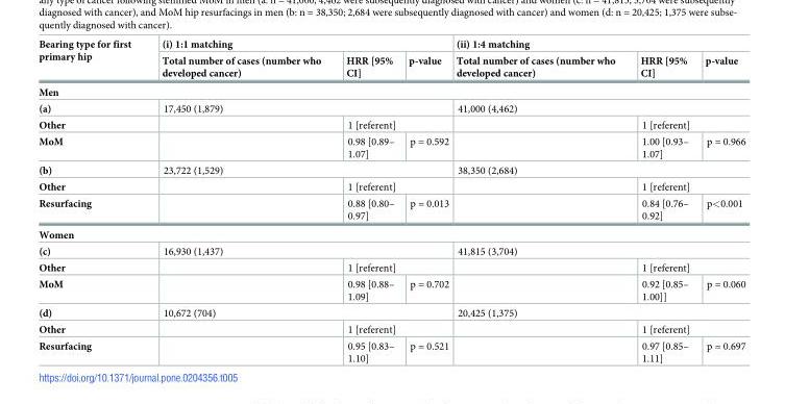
<table><thead><tr><td rowspan="2">Bearing type for first primary hip</td><td colspan="3">(i) 1:1 matching</td><td colspan="3">(ii) 1:4 matching</td></tr><tr><td>Total number of cases (number who developed cancer)</td><td>HRR [95% CI]</td><td>p-value</td><td>Total number of cases (number who developed cancer)</td><td>HRR [95% CI]</td><td>p-value</td></tr></thead><tbody><tr><td colspan="7">Men</td></tr><tr><td>(a)</td><td colspan="3">17,450 (1,879)</td><td colspan="3">41,000 (4,462)</td></tr><tr><td>Other</td><td></td><td colspan="2">1 [referent]</td><td></td><td colspan="2">1 [referent]</td></tr><tr><td>MoM</td><td></td><td>0.98 [0.89– 1.07]</td><td>p = 0.592</td><td></td><td>1.00 [0.93– 1.07]</td><td>p = 0.966</td></tr><tr><td>(b)</td><td colspan="3">23,722 (1,529)</td><td colspan="3">38,350 (2,684)</td></tr><tr><td>Other</td><td></td><td colspan="2">1 [referent]</td><td></td><td colspan="2">1 [referent]</td></tr><tr><td>Resurfacing</td><td></td><td>0.88 [0.80– 0.97]</td><td>p = 0.013</td><td></td><td>0.84 [0.76– 0.92]</td><td>p&lt;0.001</td></tr><tr><td colspan="7">Women</td></tr><tr><td>(c)</td><td colspan="3">16,930 (1,437)</td><td colspan="3">41,815 (3,704)</td></tr><tr><td>Other</td><td></td><td colspan="2">1 [referent]</td><td></td><td colspan="2">1 [referent]</td></tr><tr><td>MoM</td><td></td><td>0.98 [0.88– 1.09]</td><td>p = 0.702</td><td></td><td>0.92 [0.85– 1.00]]</td><td>p = 0.060</td></tr><tr><td>(d)</td><td colspan="3">10,672 (704)</td><td colspan="3">20,425 (1,375)</td></tr><tr><td>Other</td><td></td><td colspan="2">1 [referent]</td><td></td><td colspan="2">1 [referent]</td></tr><tr><td>Resurfacing</td><td></td><td>0.95 [0.83– 1.10]</td><td>p = 0.521</td><td></td><td>0.97 [0.85– 1.11]</td><td>p = 0.697</td></tr></tbody></table>